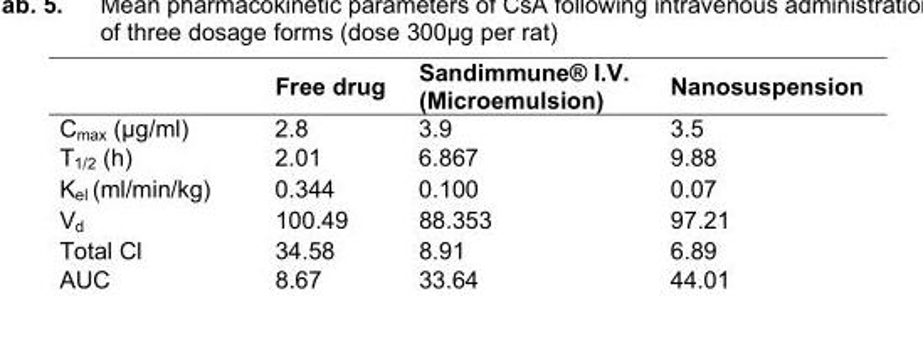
<table><thead><tr><td></td><td>Free drug</td><td>Sandimmune® I.V. (Microemulsion)</td><td>Nanosuspension</td></tr></thead><tbody><tr><td>C<sub>max</sub> (µg/ml)</td><td>2.8</td><td>3.9</td><td>3.5</td></tr><tr><td>T<sub>1/2</sub> (h)</td><td>2.01</td><td>6.867</td><td>9.88</td></tr><tr><td>K<sub>el</sub> (ml/min/kg)</td><td>0.344</td><td>0.100</td><td>0.07</td></tr><tr><td>V<sub>d</sub></td><td>100.49</td><td>88.353</td><td>97.21</td></tr><tr><td>Total Cl</td><td>34.58</td><td>8.91</td><td>6.89</td></tr><tr><td>AUC</td><td>8.67</td><td>33.64</td><td>44.01</td></tr></tbody></table>